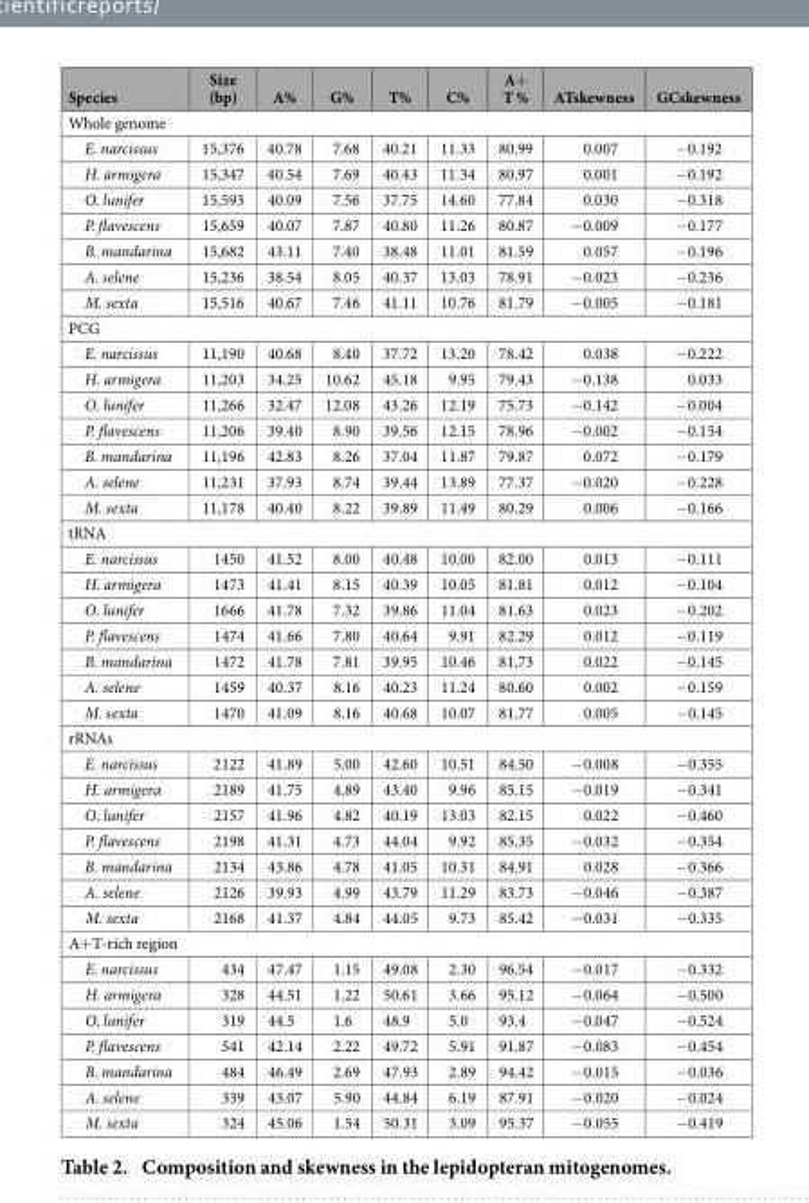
<table><thead><tr><td>Species</td><td>Size (bp)</td><td>A%</td><td>G%</td><td>T%</td><td>C%</td><td>A+ T %</td><td>ATskewness</td><td>GCskewness</td></tr></thead><tbody><tr><td colspan="9">Whole genome</td></tr><tr><td>E. narcissus</td><td>15,376</td><td>40.78</td><td>7.68</td><td>40.21</td><td>11.33</td><td>80.99</td><td>0.007</td><td>− 0.192</td></tr><tr><td>H. armigera</td><td>15,347</td><td>40.54</td><td>7.69</td><td>40.43</td><td>11.34</td><td>80.97</td><td>0.001</td><td>− 0.192</td></tr><tr><td>O. lunifer</td><td>15,593</td><td>40.09</td><td>7.56</td><td>37.75</td><td>14.60</td><td>77.84</td><td>0.030</td><td>− 0.318</td></tr><tr><td>P. flavescens</td><td>15,659</td><td>40.07</td><td>7.87</td><td>40.80</td><td>11.26</td><td>80.87</td><td>− 0.009</td><td>− 0.177</td></tr><tr><td>B. mandarina</td><td>15,682</td><td>43.11</td><td>7.40</td><td>38.48</td><td>11.01</td><td>81.59</td><td>0.057</td><td>− 0.196</td></tr><tr><td>A. selene</td><td>15,236</td><td>38.54</td><td>8.05</td><td>40.37</td><td>13.03</td><td>78.91</td><td>− 0.023</td><td>− 0.236</td></tr><tr><td>M. sexta</td><td>15,516</td><td>40.67</td><td>7.46</td><td>41.11</td><td>10.76</td><td>81.79</td><td>− 0.005</td><td>− 0.181</td></tr><tr><td colspan="9">PCG</td></tr><tr><td>E. narcissus</td><td>11,190</td><td>40.68</td><td>8.40</td><td>37.72</td><td>13.20</td><td>78.42</td><td>0.038</td><td>− 0.222</td></tr><tr><td>H. armigera</td><td>11,203</td><td>34.25</td><td>10.62</td><td>45.18</td><td>9.95</td><td>79.43</td><td>− 0.138</td><td>0.033</td></tr><tr><td>O. lunifer</td><td>11,266</td><td>32.47</td><td>12.08</td><td>43.26</td><td>12.19</td><td>75.73</td><td>− 0.142</td><td>− 0.004</td></tr><tr><td>P. flavescens</td><td>11,206</td><td>39.40</td><td>8.90</td><td>39.56</td><td>12.15</td><td>78.96</td><td>− 0.002</td><td>− 0.154</td></tr><tr><td>B. mandarina</td><td>11,196</td><td>42.83</td><td>8.26</td><td>37.04</td><td>11.87</td><td>79.87</td><td>0.072</td><td>− 0.179</td></tr><tr><td>A. selene</td><td>11,231</td><td>37.93</td><td>8.74</td><td>39.44</td><td>13.89</td><td>77.37</td><td>− 0.020</td><td>− 0.228</td></tr><tr><td>M. sexta</td><td>11,178</td><td>40.40</td><td>8.22</td><td>39.89</td><td>11.49</td><td>80.29</td><td>0.006</td><td>− 0.166</td></tr><tr><td colspan="9">tRNA</td></tr><tr><td>E. narcissus</td><td>1450</td><td>41.52</td><td>8.00</td><td>40.48</td><td>10.00</td><td>82.00</td><td>0.013</td><td>− 0.111</td></tr><tr><td>H. armigera</td><td>1473</td><td>41.41</td><td>8.15</td><td>40.39</td><td>10.05</td><td>81.81</td><td>0.012</td><td>− 0.104</td></tr><tr><td>O. lunifer</td><td>1666</td><td>41.78</td><td>7.32</td><td>39.86</td><td>11.04</td><td>81.63</td><td>0.023</td><td>− 0.202</td></tr><tr><td>P. flavescens</td><td>1474</td><td>41.66</td><td>7.80</td><td>40.64</td><td>9.91</td><td>82.29</td><td>0.012</td><td>− 0.119</td></tr><tr><td>B. mandarina</td><td>1472</td><td>41.78</td><td>7.81</td><td>39.95</td><td>10.46</td><td>81.73</td><td>0.022</td><td>− 0.145</td></tr><tr><td>A. selene</td><td>1459</td><td>40.37</td><td>8.16</td><td>40.23</td><td>11.24</td><td>80.60</td><td>0.002</td><td>− 0.159</td></tr><tr><td>M. sexta</td><td>1470</td><td>41.09</td><td>8.16</td><td>40.68</td><td>10.07</td><td>81.77</td><td>0.005</td><td>− 0.145</td></tr><tr><td colspan="9">rRNAs</td></tr><tr><td>E. narcissus</td><td>2122</td><td>41.89</td><td>5.00</td><td>42.60</td><td>10.51</td><td>84.50</td><td>− 0.008</td><td>− 0.355</td></tr><tr><td>H. armigera</td><td>2189</td><td>41.75</td><td>4.89</td><td>43.40</td><td>9.96</td><td>85.15</td><td>− 0.019</td><td>− 0.341</td></tr><tr><td>O. lunifer</td><td>2157</td><td>41.96</td><td>4.82</td><td>40.19</td><td>13.03</td><td>82.15</td><td>0.022</td><td>− 0.460</td></tr><tr><td>P. flavescens</td><td>2198</td><td>41.31</td><td>4.73</td><td>44.04</td><td>9.92</td><td>85.35</td><td>− 0.032</td><td>− 0.354</td></tr><tr><td>B. mandarina</td><td>2134</td><td>43.86</td><td>4.78</td><td>41.05</td><td>10.31</td><td>84.91</td><td>0.028</td><td>− 0.366</td></tr><tr><td>A. selene</td><td>2126</td><td>39.93</td><td>4.99</td><td>43.79</td><td>11.29</td><td>83.73</td><td>− 0.046</td><td>− 0.387</td></tr><tr><td>M. sexta</td><td>2168</td><td>41.37</td><td>4.84</td><td>44.05</td><td>9.73</td><td>85.42</td><td>− 0.031</td><td>− 0.335</td></tr><tr><td colspan="9">A+ T-rich region</td></tr><tr><td>E. narcissus</td><td>434</td><td>47.47</td><td>1.15</td><td>49.08</td><td>2.30</td><td>96.54</td><td>− 0.017</td><td>− 0.332</td></tr><tr><td>H. armigera</td><td>328</td><td>44.51</td><td>1.22</td><td>50.61</td><td>3.66</td><td>95.12</td><td>− 0.064</td><td>− 0.500</td></tr><tr><td>O. lunifer</td><td>319</td><td>44.5</td><td>1.6</td><td>48.9</td><td>5.0</td><td>93.4</td><td>− 0.047</td><td>− 0.524</td></tr><tr><td>P. flavescens</td><td>541</td><td>42.14</td><td>2.22</td><td>49.72</td><td>5.91</td><td>91.87</td><td>− 0.083</td><td>− 0.454</td></tr><tr><td>B. mandarina</td><td>484</td><td>46.49</td><td>2.69</td><td>47.93</td><td>2.89</td><td>94.42</td><td>− 0.015</td><td>− 0.036</td></tr><tr><td>A. selene</td><td>339</td><td>43.07</td><td>5.90</td><td>44.84</td><td>6.19</td><td>87.91</td><td>− 0.020</td><td>− 0.024</td></tr><tr><td>M. sexta</td><td>324</td><td>45.06</td><td>1.54</td><td>50.31</td><td>3.09</td><td>95.37</td><td>− 0.055</td><td>− 0.419</td></tr></tbody></table>